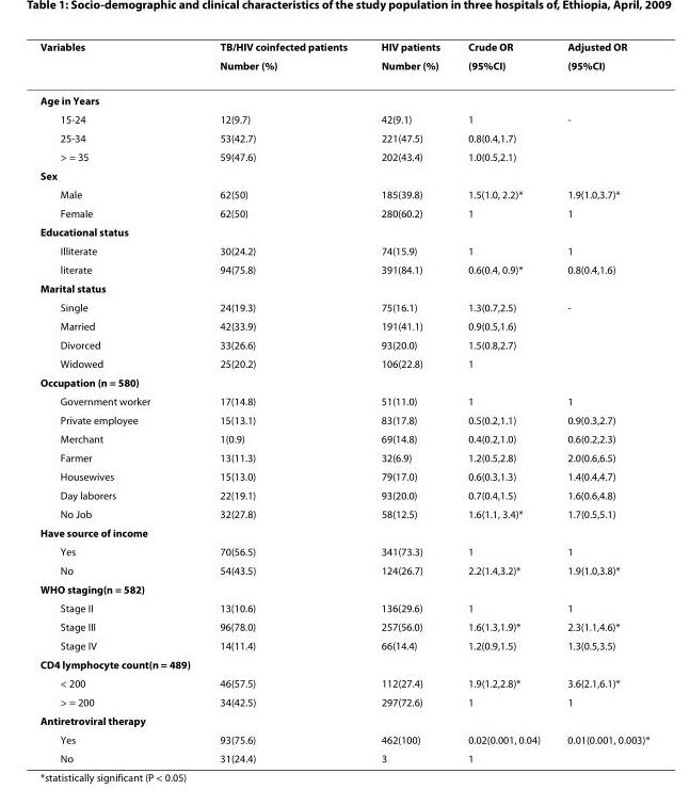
<table><thead><tr><td rowspan="2">Variables</td><td rowspan="2">TB/HIV coinfected patients Number (%)</td><td rowspan="2">HIV patients Number (%)</td><td rowspan="2">Crude OR (95%CI)</td><td rowspan="2">Adjusted OR (95%CI)</td></tr><tr></tr></thead><tbody><tr><td colspan="5">Age in Years</td></tr><tr><td>15-24</td><td>12(9.7)</td><td>42(9.1)</td><td>1</td><td>-</td></tr><tr><td>25-34</td><td>53(42.7)</td><td>221(47.5)</td><td>0.8(0.4,1.7)</td><td></td></tr><tr><td>&gt; = 35</td><td>59(47.6)</td><td>202(43.4)</td><td>1.0(0.5,2.1)</td><td></td></tr><tr><td colspan="5">Sex</td></tr><tr><td>Male</td><td>62(50)</td><td>185(39.8)</td><td>1.5(1.0, 2.2)*</td><td>1.9(1.0,3.7)*</td></tr><tr><td>Female</td><td>62(50)</td><td>280(60.2)</td><td>1</td><td>1</td></tr><tr><td colspan="5">Educational status</td></tr><tr><td>Illiterate</td><td>30(24.2)</td><td>74(15.9)</td><td>1</td><td>1</td></tr><tr><td>literate</td><td>94(75.8)</td><td>391(84.1)</td><td>0.6(0.4, 0.9)*</td><td>0.8(0.4,1.6)</td></tr><tr><td colspan="5">Marital status</td></tr><tr><td>Single</td><td>24(19.3)</td><td>75(16.1)</td><td>1.3(0.7,2.5)</td><td>-</td></tr><tr><td>Married</td><td>42(33.9)</td><td>191(41.1)</td><td>0.9(0.5,1.6)</td><td></td></tr><tr><td>Divorced</td><td>33(26.6)</td><td>93(20.0)</td><td>1.5(0.8,2.7)</td><td></td></tr><tr><td>Widowed</td><td>25(20.2)</td><td>106(22.8)</td><td>1</td><td></td></tr><tr><td colspan="5">Occupation (n = 580)</td></tr><tr><td>Government worker</td><td>17(14.8)</td><td>51(11.0)</td><td>1</td><td>1</td></tr><tr><td>Private employee</td><td>15(13.1)</td><td>83(17.8)</td><td>0.5(0.2,1.1)</td><td>0.9(0.3,2.7)</td></tr><tr><td>Merchant</td><td>1(0.9)</td><td>69(14.8)</td><td>0.4(0.2,1.0)</td><td>0.6(0.2,2.3)</td></tr><tr><td>Farmer</td><td>13(11.3)</td><td>32(6.9)</td><td>1.2(0.5,2.8)</td><td>2.0(0.6,6.5)</td></tr><tr><td>Housewives</td><td>15(13.0)</td><td>79(17.0)</td><td>0.6(0.3,1.3)</td><td>1.4(0.4,4.7)</td></tr><tr><td>Day laborers</td><td>22(19.1)</td><td>93(20.0)</td><td>0.7(0.4,1.5)</td><td>1.6(0.6,4.8)</td></tr><tr><td>No Job</td><td>32(27.8)</td><td>58(12.5)</td><td>1.6(1.1, 3.4)*</td><td>1.7(0.5,5.1)</td></tr><tr><td colspan="5">Have source of income</td></tr><tr><td>Yes</td><td>70(56.5)</td><td>341(73.3)</td><td>1</td><td>1</td></tr><tr><td>No</td><td>54(43.5)</td><td>124(26.7)</td><td>2.2(1.4,3.2)*</td><td>1.9(1.0,3.8)*</td></tr><tr><td colspan="5">WHO staging(n = 582)</td></tr><tr><td>Stage II</td><td>13(10.6)</td><td>136(29.6)</td><td>1</td><td>1</td></tr><tr><td>Stage III</td><td>96(78.0)</td><td>257(56.0)</td><td>1.6(1.3,1.9)*</td><td>2.3(1.1,4.6)*</td></tr><tr><td>Stage IV</td><td>14(11.4)</td><td>66(14.4)</td><td>1.2(0.9,1.5)</td><td>1.3(0.5,3.5)</td></tr><tr><td colspan="5">CD4 lymphocyte count(n = 489)</td></tr><tr><td>&lt; 200</td><td>46(57.5)</td><td>112(27.4)</td><td>1.9(1.2,2.8)*</td><td>3.6(2.1,6.1)*</td></tr><tr><td>&gt; = 200</td><td>34(42.5)</td><td>297(72.6)</td><td>1</td><td>1</td></tr><tr><td colspan="5">Antiretroviral therapy</td></tr><tr><td>Yes</td><td>93(75.6)</td><td>462(100)</td><td>0.02(0.001, 0.04)</td><td>0.01(0.001, 0.003)*</td></tr><tr><td>No</td><td>31(24.4)</td><td>3</td><td>1</td><td></td></tr></tbody></table>